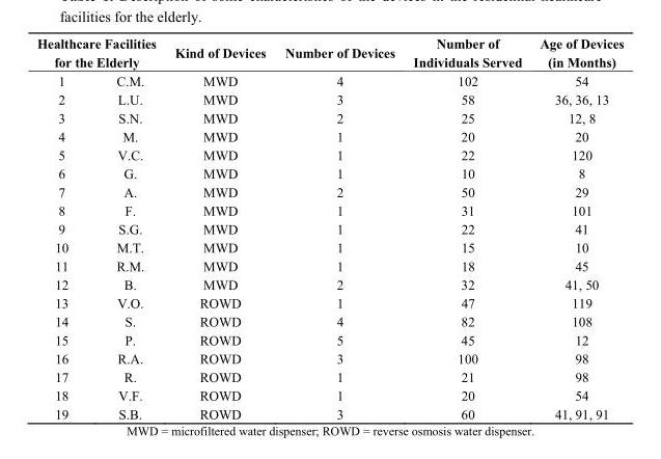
<table><thead><tr><td colspan="2">Healthcare Facilities for the Elderly</td><td rowspan="2">Kind of Devices MWD</td><td rowspan="2">Number of Devices 4</td><td rowspan="2">Number of Individuals Served 102</td><td rowspan="2">Age of Devices (in Months) 54</td></tr><tr><td>1</td><td>C.M.</td></tr></thead><tbody><tr><td>2</td><td>L.U.</td><td>MWD</td><td>3</td><td>58</td><td>36, 36, 13</td></tr><tr><td>3</td><td>S.N.</td><td>MWD</td><td>2</td><td>25</td><td>12, 8</td></tr><tr><td>4</td><td>M.</td><td>MWD</td><td>1</td><td>20</td><td>20</td></tr><tr><td>5</td><td>V.C.</td><td>MWD</td><td>1</td><td>22</td><td>120</td></tr><tr><td>6</td><td>G.</td><td>MWD</td><td>1</td><td>10</td><td>8</td></tr><tr><td>7</td><td>A.</td><td>MWD</td><td>2</td><td>50</td><td>29</td></tr><tr><td>8</td><td>F.</td><td>MWD</td><td>1</td><td>31</td><td>101</td></tr><tr><td>9</td><td>S.G.</td><td>MWD</td><td>1</td><td>22</td><td>41</td></tr><tr><td>10</td><td>M.T.</td><td>MWD</td><td>1</td><td>15</td><td>10</td></tr><tr><td>11</td><td>R.M.</td><td>MWD</td><td>1</td><td>18</td><td>45</td></tr><tr><td>12</td><td>B.</td><td>MWD</td><td>2</td><td>32</td><td>41, 50</td></tr><tr><td>13</td><td>V.O.</td><td>ROWD</td><td>1</td><td>47</td><td>119</td></tr><tr><td>14</td><td>S.</td><td>ROWD</td><td>4</td><td>82</td><td>108</td></tr><tr><td>15</td><td>P.</td><td>ROWD</td><td>5</td><td>45</td><td>12</td></tr><tr><td>16</td><td>R.A.</td><td>ROWD</td><td>3</td><td>100</td><td>98</td></tr><tr><td>17</td><td>R.</td><td>ROWD</td><td>1</td><td>21</td><td>98</td></tr><tr><td>18</td><td>V.F.</td><td>ROWD</td><td>1</td><td>20</td><td>54</td></tr><tr><td>19</td><td>S.B.</td><td>ROWD</td><td>3</td><td>60</td><td>41, 91, 91</td></tr></tbody></table>